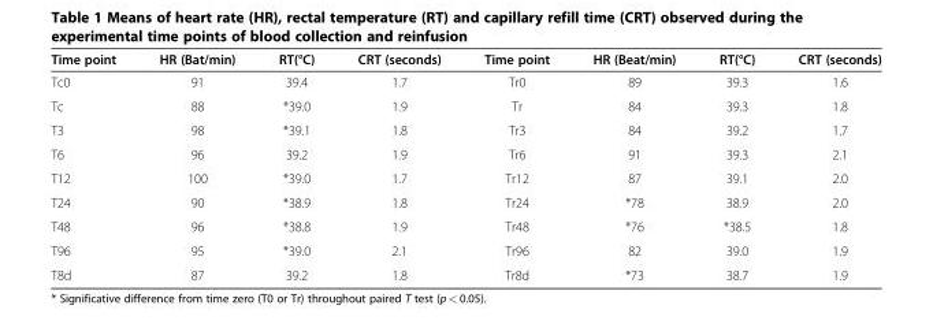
<table><thead><tr><td>Time point</td><td>HR (Bat/min)</td><td>RT(°C)</td><td>CRT (seconds)</td><td>Time point</td><td>HR (Beat/min)</td><td>RT(°C)</td><td>CRT (seconds)</td></tr></thead><tbody><tr><td>Tc0</td><td>91</td><td>39.4</td><td>1.7</td><td>Tr0</td><td>89</td><td>39.3</td><td>1.6</td></tr><tr><td>Tc</td><td>88</td><td>*39.0</td><td>1.9</td><td>Tr</td><td>84</td><td>39.3</td><td>1.8</td></tr><tr><td>T3</td><td>98</td><td>*39.1</td><td>1.8</td><td>Tr3</td><td>84</td><td>39.2</td><td>1.7</td></tr><tr><td>T6</td><td>96</td><td>39.2</td><td>1.9</td><td>Tr6</td><td>91</td><td>39.3</td><td>2.1</td></tr><tr><td>T12</td><td>100</td><td>*39.0</td><td>1.7</td><td>Tr12</td><td>87</td><td>39.1</td><td>2.0</td></tr><tr><td>T24</td><td>90</td><td>*38.9</td><td>1.8</td><td>Tr24</td><td>*78</td><td>38.9</td><td>2.0</td></tr><tr><td>T48</td><td>96</td><td>*38.8</td><td>1.9</td><td>Tr48</td><td>*76</td><td>*38.5</td><td>1.8</td></tr><tr><td>T96</td><td>95</td><td>*39.0</td><td>2.1</td><td>Tr96</td><td>82</td><td>39.0</td><td>1.9</td></tr><tr><td>T8d</td><td>87</td><td>39.2</td><td>1.8</td><td>Tr8d</td><td>*73</td><td>38.7</td><td>1.9</td></tr></tbody></table>